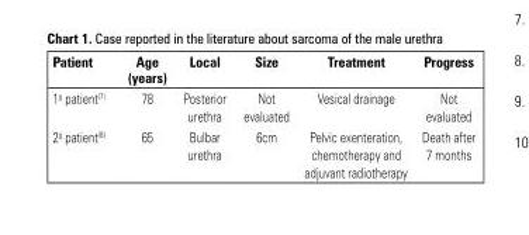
<table><thead><tr><td>Patient</td><td>Age (years)</td><td>Local</td><td>Size</td><td>Treatment</td><td>Progress</td></tr></thead><tbody><tr><td>1<sup>o</sup> patient<sup>(7)</sup></td><td>78</td><td>Posterior urethra</td><td>Not evaluated</td><td>Vesical drainage</td><td>Not evaluated</td></tr><tr><td>2<sup>o</sup> patient<sup>(8)</sup></td><td>65</td><td>Bulbar urethra</td><td>6cm</td><td>Pelvic exenteration, chemotherapy and adjuvant radiotherapy</td><td>Death after 7 months</td></tr></tbody></table>